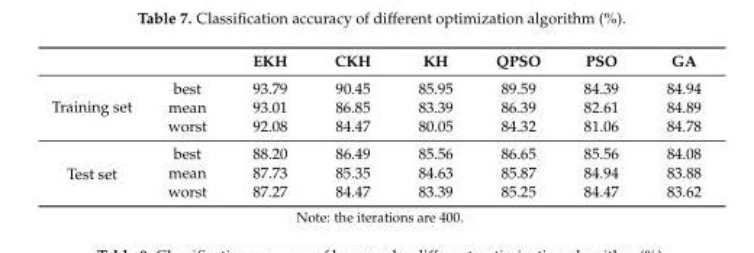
<table><thead><tr><td></td><td></td><td>EKH</td><td>CKH</td><td>KH</td><td>QPSO</td><td>PSO</td><td>GA</td></tr></thead><tbody><tr><td rowspan="3">Training set</td><td>best</td><td>93.79</td><td>90.45</td><td>85.95</td><td>89.59</td><td>84.39</td><td>84.94</td></tr><tr><td>mean</td><td>93.01</td><td>86.85</td><td>83.39</td><td>86.39</td><td>82.61</td><td>84.89</td></tr><tr><td>worst</td><td>92.08</td><td>84.47</td><td>80.05</td><td>84.32</td><td>81.06</td><td>84.78</td></tr><tr><td rowspan="3">Test set</td><td>best</td><td>88.20</td><td>86.49</td><td>85.56</td><td>86.65</td><td>85.56</td><td>84.08</td></tr><tr><td>mean</td><td>87.73</td><td>85.35</td><td>84.63</td><td>85.87</td><td>84.94</td><td>83.88</td></tr><tr><td>worst</td><td>87.27</td><td>84.47</td><td>83.39</td><td>85.25</td><td>84.47</td><td>83.62</td></tr></tbody></table>